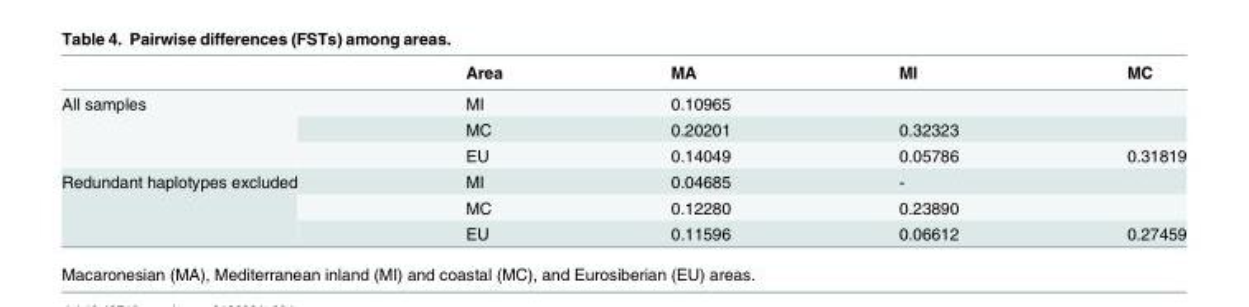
<table><thead><tr><td></td><td>Area</td><td>MA</td><td>MI</td><td>MC</td></tr></thead><tbody><tr><td rowspan="3">All samples</td><td>MI</td><td>0.10965</td><td></td><td></td></tr><tr><td>MC</td><td>0.20201</td><td>0.32323</td><td></td></tr><tr><td>EU</td><td>0.14049</td><td>0.05786</td><td>0.31819</td></tr><tr><td rowspan="3">Redundant haplotypes excluded</td><td>MI</td><td>0.04685</td><td>-</td><td></td></tr><tr><td>MC</td><td>0.12280</td><td>0.23890</td><td></td></tr><tr><td>EU</td><td>0.11596</td><td>0.06612</td><td>0.27459</td></tr></tbody></table>